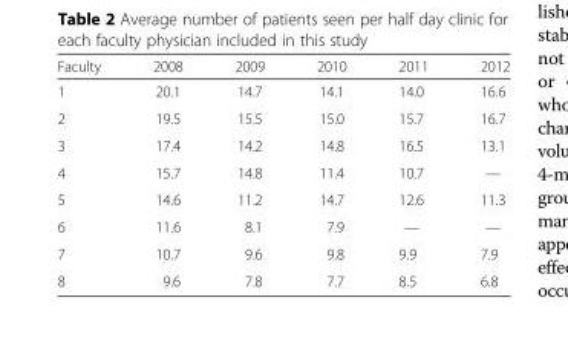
<table><thead><tr><td>Faculty</td><td>2008</td><td>2009</td><td>2010</td><td>2011</td><td>2012</td></tr></thead><tbody><tr><td>1</td><td>20.1</td><td>14.7</td><td>14.1</td><td>14.0</td><td>16.6</td></tr><tr><td>2</td><td>19.5</td><td>15.5</td><td>15.0</td><td>15.7</td><td>16.7</td></tr><tr><td>3</td><td>17.4</td><td>14.2</td><td>14.8</td><td>16.5</td><td>13.1</td></tr><tr><td>4</td><td>15.7</td><td>14.8</td><td>11.4</td><td>10.7</td><td>—</td></tr><tr><td>5</td><td>14.6</td><td>11.2</td><td>14.7</td><td>12.6</td><td>11.3</td></tr><tr><td>6</td><td>11.6</td><td>8.1</td><td>7.9</td><td>—</td><td>—</td></tr><tr><td>7</td><td>10.7</td><td>9.6</td><td>9.8</td><td>9.9</td><td>7.9</td></tr><tr><td>8</td><td>9.6</td><td>7.8</td><td>7.7</td><td>8.5</td><td>6.8</td></tr></tbody></table>